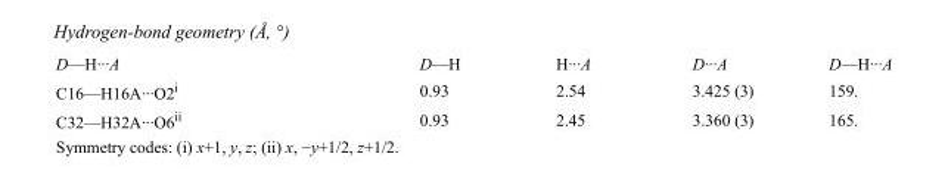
<table><tbody><tr><td>D—H···A</td><td>D—H</td><td>H···A</td><td>D···A</td><td>D—H···A</td></tr><tr><td>C16—H16A···O2<sup>i</sup></td><td>0.93</td><td>2.54</td><td>3.425 (3)</td><td>159.</td></tr><tr><td>C32—H32A···O6<sup>ii</sup></td><td>0.93</td><td>2.45</td><td>3.360 (3)</td><td>165.</td></tr></tbody></table>